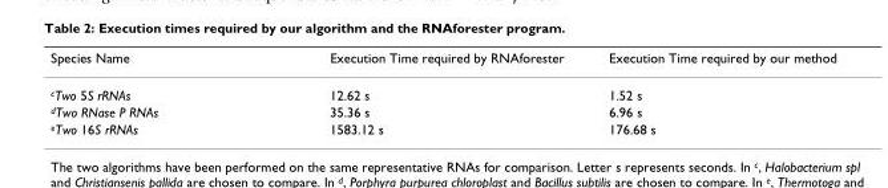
<table><thead><tr><td>Species Name</td><td>Execution Time required by RNAforester</td><td>Execution Time required by our method</td></tr></thead><tbody><tr><td><sup>c</sup>Two 5S rRNAs</td><td>12.62 s</td><td>1.52 s</td></tr><tr><td><sup>d</sup>Two RNase P RNAs</td><td>35.36 s</td><td>6.96 s</td></tr><tr><td><sup>e</sup>Two 16S rRNAs</td><td>1583.12 s</td><td>176.68 s</td></tr></tbody></table>